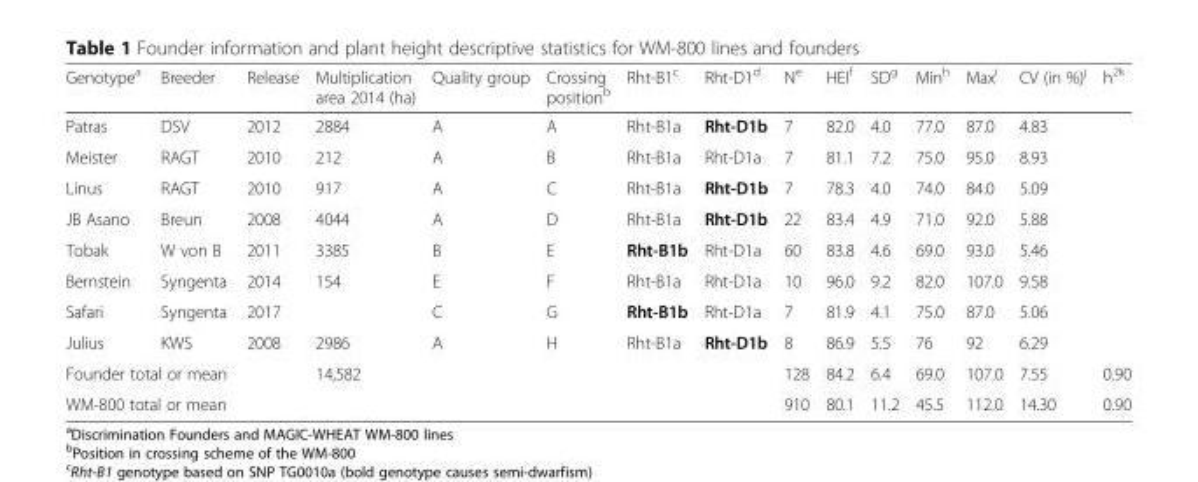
<table><thead><tr><td>Genotype<sup>a</sup></td><td>Breeder</td><td>Release</td><td>Multiplication area 2014 (ha)</td><td>Quality group</td><td>Crossing position<sup>b</sup></td><td>Rht-B1<sup>c</sup></td><td>Rht-D1<sup>d</sup></td><td>N<sup>e</sup></td><td>HEI<sup>f</sup></td><td>SD<sup>g</sup></td><td>Min<sup>h</sup></td><td>Max<sup>i</sup></td><td>CV (in %)<sup>j</sup></td><td>h<sup>2k</sup></td></tr></thead><tbody><tr><td>Patras</td><td>DSV</td><td>2012</td><td>2884</td><td>A</td><td>A</td><td>Rht-B1a</td><td>Rht-D1b</td><td>7</td><td>82.0</td><td>4.0</td><td>77.0</td><td>87.0</td><td>4.83</td><td></td></tr><tr><td>Meister</td><td>RAGT</td><td>2010</td><td>212</td><td>A</td><td>B</td><td>Rht-B1a</td><td>Rht-D1a</td><td>7</td><td>81.1</td><td>7.2</td><td>75.0</td><td>95.0</td><td>8.93</td><td></td></tr><tr><td>Linus</td><td>RAGT</td><td>2010</td><td>917</td><td>A</td><td>C</td><td>Rht-B1a</td><td>Rht-D1b</td><td>7</td><td>78.3</td><td>4.0</td><td>74.0</td><td>84.0</td><td>5.09</td><td></td></tr><tr><td>JB Asano</td><td>Breun</td><td>2008</td><td>4044</td><td>A</td><td>D</td><td>Rht-B1a</td><td>Rht-D1b</td><td>22</td><td>83.4</td><td>4.9</td><td>71.0</td><td>92.0</td><td>5.88</td><td></td></tr><tr><td>Tobak</td><td>W von B</td><td>2011</td><td>3385</td><td>B</td><td>E</td><td>Rht-B1b</td><td>Rht-D1a</td><td>60</td><td>83.8</td><td>4.6</td><td>69.0</td><td>93.0</td><td>5.46</td><td></td></tr><tr><td>Bernstein</td><td>Syngenta</td><td>2014</td><td>154</td><td>E</td><td>F</td><td>Rht-B1a</td><td>Rht-D1a</td><td>10</td><td>96.0</td><td>9.2</td><td>82.0</td><td>107.0</td><td>9.58</td><td></td></tr><tr><td>Safari</td><td>Syngenta</td><td>2017</td><td></td><td>C</td><td>G</td><td>Rht-B1b</td><td>Rht-D1a</td><td>7</td><td>81.9</td><td>4.1</td><td>75.0</td><td>87.0</td><td>5.06</td><td></td></tr><tr><td>Julius</td><td>KWS</td><td>2008</td><td>2986</td><td>A</td><td>H</td><td>Rht-B1a</td><td>Rht-D1b</td><td>8</td><td>86.9</td><td>5.5</td><td>76</td><td>92</td><td>6.29</td><td></td></tr><tr><td colspan="2">Founder total or mean</td><td></td><td>14,582</td><td></td><td></td><td></td><td></td><td>128</td><td>84.2</td><td>6.4</td><td>69.0</td><td>107.0</td><td>7.55</td><td>0.90</td></tr><tr><td colspan="2">WM-800 total or mean</td><td></td><td></td><td></td><td></td><td></td><td></td><td>910</td><td>80.1</td><td>11.2</td><td>45.5</td><td>112.0</td><td>14.30</td><td>0.90</td></tr></tbody></table>